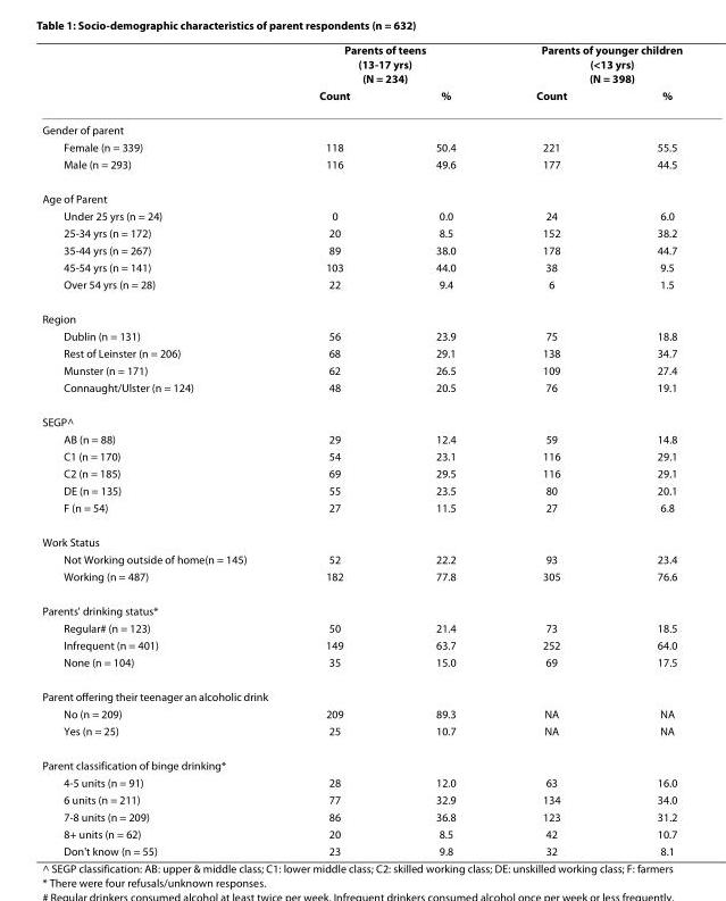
<table><thead><tr><td rowspan="2"></td><td colspan="2">Parents of teens (13-17 yrs) (N = 234)</td><td colspan="2">Parents of younger children (&lt;13 yrs) (N = 398)</td></tr><tr><td>Count</td><td>%</td><td>Count</td><td>%</td></tr></thead><tbody><tr><td colspan="5">Gender of parent</td></tr><tr><td>Female (n = 339)</td><td>118</td><td>50.4</td><td>221</td><td>55.5</td></tr><tr><td>Male (n = 293)</td><td>116</td><td>49.6</td><td>177</td><td>44.5</td></tr><tr><td colspan="5">Age of Parent</td></tr><tr><td>Under 25 yrs (n = 24)</td><td>0</td><td>0.0</td><td>24</td><td>6.0</td></tr><tr><td>25-34 yrs (n = 172)</td><td>20</td><td>8.5</td><td>152</td><td>38.2</td></tr><tr><td>35-44 yrs (n = 267)</td><td>89</td><td>38.0</td><td>178</td><td>44.7</td></tr><tr><td>45-54 yrs (n = 141)</td><td>103</td><td>44.0</td><td>38</td><td>9.5</td></tr><tr><td>Over 54 yrs (n = 28)</td><td>22</td><td>9.4</td><td>6</td><td>1.5</td></tr><tr><td colspan="5">Region</td></tr><tr><td>Dublin (n = 131)</td><td>56</td><td>23.9</td><td>75</td><td>18.8</td></tr><tr><td>Rest of Leinster (n = 206)</td><td>68</td><td>29.1</td><td>138</td><td>34.7</td></tr><tr><td>Munster (n = 171)</td><td>62</td><td>26.5</td><td>109</td><td>27.4</td></tr><tr><td>Connaught/Ulster (n = 124)</td><td>48</td><td>20.5</td><td>76</td><td>19.1</td></tr><tr><td colspan="5">SEGP^</td></tr><tr><td>AB (n = 88)</td><td>29</td><td>12.4</td><td>59</td><td>14.8</td></tr><tr><td>C1 (n = 170)</td><td>54</td><td>23.1</td><td>116</td><td>29.1</td></tr><tr><td>C2 (n = 185)</td><td>69</td><td>29.5</td><td>116</td><td>29.1</td></tr><tr><td>DE (n = 135)</td><td>55</td><td>23.5</td><td>80</td><td>20.1</td></tr><tr><td>F (n = 54)</td><td>27</td><td>11.5</td><td>27</td><td>6.8</td></tr><tr><td colspan="5">Work Status</td></tr><tr><td>Not Working outside of home(n = 145)</td><td>52</td><td>22.2</td><td>93</td><td>23.4</td></tr><tr><td>Working (n = 487)</td><td>182</td><td>77.8</td><td>305</td><td>76.6</td></tr><tr><td colspan="5">Parents&#x27; drinking status*</td></tr><tr><td>Regular# (n = 123)</td><td>50</td><td>21.4</td><td>73</td><td>18.5</td></tr><tr><td>Infrequent (n = 401)</td><td>149</td><td>63.7</td><td>252</td><td>64.0</td></tr><tr><td>None (n = 104)</td><td>35</td><td>15.0</td><td>69</td><td>17.5</td></tr><tr><td colspan="5">Parent offering their teenager an alcoholic drink</td></tr><tr><td>No (n = 209)</td><td>209</td><td>89.3</td><td>NA</td><td>NA</td></tr><tr><td>Yes (n = 25)</td><td>25</td><td>10.7</td><td>NA</td><td>NA</td></tr><tr><td colspan="5">Parent classification of binge drinking*</td></tr><tr><td>4-5 units (n = 91)</td><td>28</td><td>12.0</td><td>63</td><td>16.0</td></tr><tr><td>6 units (n = 211)</td><td>77</td><td>32.9</td><td>134</td><td>34.0</td></tr><tr><td>7-8 units (n = 209)</td><td>86</td><td>36.8</td><td>123</td><td>31.2</td></tr><tr><td>8+ units (n = 62)</td><td>20</td><td>8.5</td><td>42</td><td>10.7</td></tr><tr><td>Don&#x27;t know (n = 55)</td><td>23</td><td>9.8</td><td>32</td><td>8.1</td></tr></tbody></table>